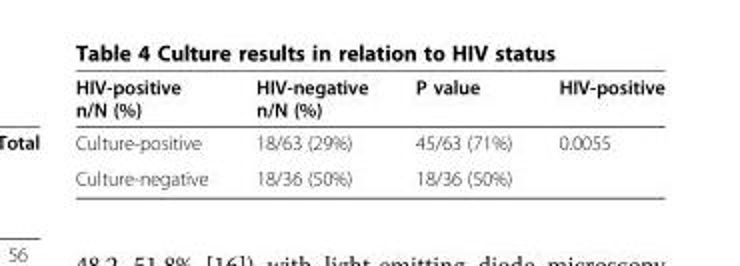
<table><thead><tr><td>HIV-positive n/N (%)</td><td>HIV-negative n/N (%)</td><td>P value</td><td>HIV-positive</td></tr></thead><tbody><tr><td>Culture-positive</td><td>18/63 (29%)</td><td>45/63 (71%)</td><td>0.0055</td></tr><tr><td>Culture-negative</td><td>18/36 (50%)</td><td>18/36 (50%)</td><td></td></tr></tbody></table>